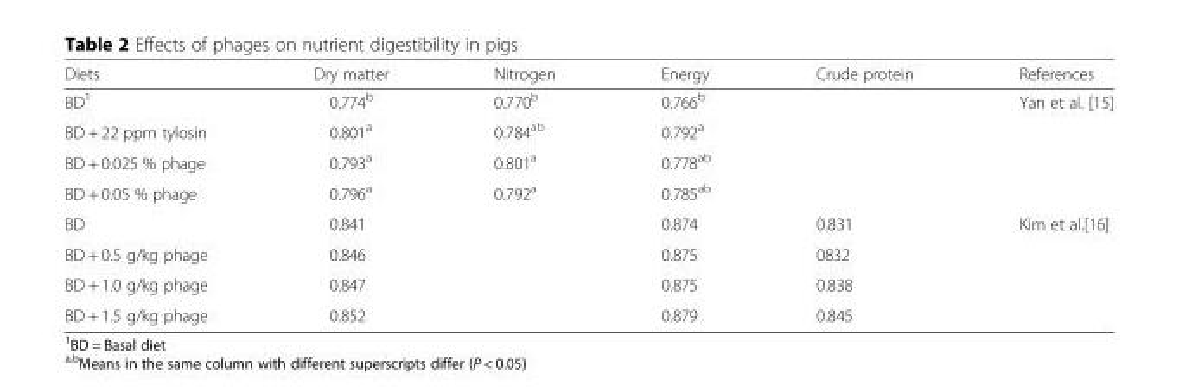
<table><thead><tr><td>Diets</td><td>Dry matter</td><td>Nitrogen</td><td>Energy</td><td>Crude protein</td><td>References</td></tr></thead><tbody><tr><td>BD<sup>1</sup></td><td>0.774<sup>b</sup></td><td>0.770<sup>b</sup></td><td>0.766<sup>b</sup></td><td></td><td rowspan="4">Yan et al. [15]</td></tr><tr><td>BD + 22 ppm tylosin</td><td>0.801<sup>a</sup></td><td>0.784<sup>ab</sup></td><td>0.792<sup>a</sup></td><td></td></tr><tr><td>BD + 0.025 % phage</td><td>0.793<sup>a</sup></td><td>0.801<sup>a</sup></td><td>0.778<sup>ab</sup></td><td></td></tr><tr><td>BD + 0.05 % phage</td><td>0.796<sup>a</sup></td><td>0.792<sup>a</sup></td><td>0.785<sup>ab</sup></td><td></td></tr><tr><td>BD</td><td>0.841</td><td></td><td>0.874</td><td>0.831</td><td rowspan="4">Kim et al.[16]</td></tr><tr><td>BD + 0.5 g/kg phage</td><td>0.846</td><td></td><td>0.875</td><td>0832</td></tr><tr><td>BD + 1.0 g/kg phage</td><td>0.847</td><td></td><td>0.875</td><td>0.838</td></tr><tr><td>BD + 1.5 g/kg phage</td><td>0.852</td><td></td><td>0.879</td><td>0.845</td></tr></tbody></table>